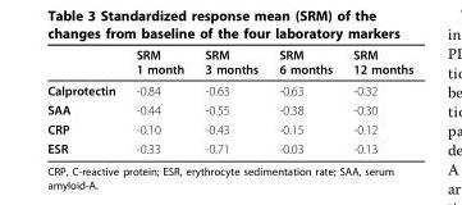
<table><thead><tr><td></td><td>SRM 1 month</td><td>SRM 3 months</td><td>SRM 6 months</td><td>SRM 12 months</td></tr></thead><tbody><tr><td>Calprotectin</td><td>-0.84</td><td>-0.63</td><td>-0.63</td><td>-0.32</td></tr><tr><td>SAA</td><td>-0.44</td><td>-0.55</td><td>-0.38</td><td>-0.30</td></tr><tr><td>CRP</td><td>-0.10</td><td>-0.43</td><td>-0.15</td><td>-0.12</td></tr><tr><td>ESR</td><td>-0.33</td><td>-0.71</td><td>-0.03</td><td>-0.13</td></tr></tbody></table>